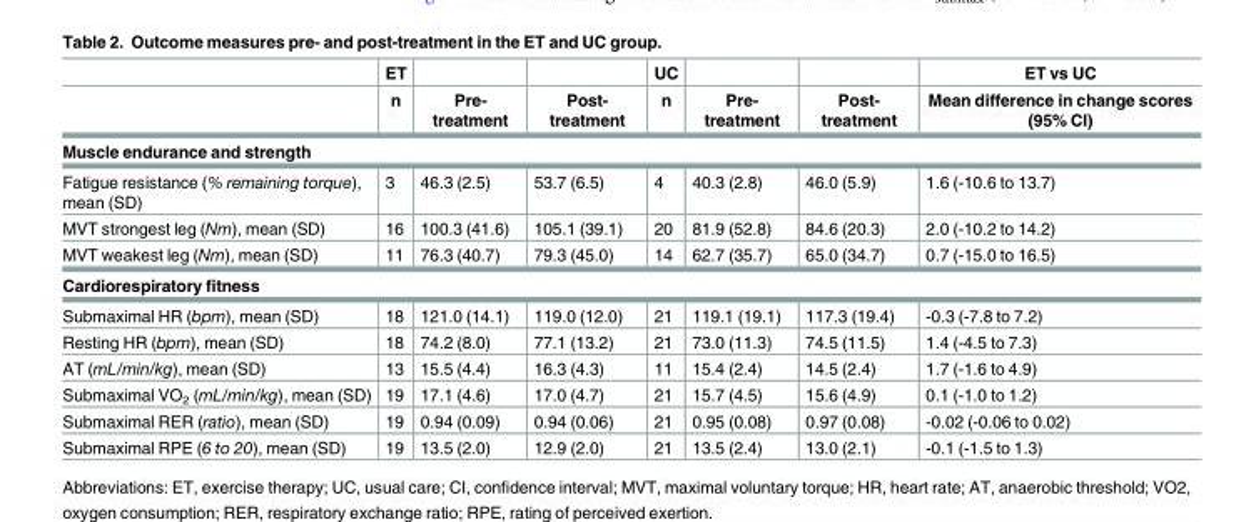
<table><thead><tr><td rowspan="2"></td><td rowspan="2">ET n</td><td rowspan="2">Pre- treatment</td><td rowspan="2">Post- treatment</td><td rowspan="2">UC n</td><td rowspan="2">Pre- treatment</td><td rowspan="2">Post- treatment</td><td rowspan="2">ET vs UC Mean difference in change scores (95% CI)</td></tr><tr></tr></thead><tbody><tr><td colspan="8">Muscle endurance and strength</td></tr><tr><td>Fatigue resistance (% remaining torque), mean (SD)</td><td>3</td><td>46.3 (2.5)</td><td>53.7 (6.5)</td><td>4</td><td>40.3 (2.8)</td><td>46.0 (5.9)</td><td>1.6 (-10.6 to 13.7)</td></tr><tr><td>MVT strongest leg (Nm), mean (SD)</td><td>16</td><td>100.3 (41.6)</td><td>105.1 (39.1)</td><td>20</td><td>81.9 (52.8)</td><td>84.6 (20.3)</td><td>2.0 (-10.2 to 14.2)</td></tr><tr><td>MVT weakest leg (Nm), mean (SD)</td><td>11</td><td>76.3 (40.7)</td><td>79.3 (45.0)</td><td>14</td><td>62.7 (35.7)</td><td>65.0 (34.7)</td><td>0.7 (-15.0 to 16.5)</td></tr><tr><td colspan="8">Cardiorespiratory fitness</td></tr><tr><td>Submaximal HR (bpm), mean (SD)</td><td>18</td><td>121.0 (14.1)</td><td>119.0 (12.0)</td><td>21</td><td>119.1 (19.1)</td><td>117.3 (19.4)</td><td>-0.3 (-7.8 to 7.2)</td></tr><tr><td>Resting HR (bpm), mean (SD)</td><td>18</td><td>74.2 (8.0)</td><td>77.1 (13.2)</td><td>21</td><td>73.0 (11.3)</td><td>74.5 (11.5)</td><td>1.4 (-4.5 to 7.3)</td></tr><tr><td>AT (mL/min/kg), mean (SD)</td><td>13</td><td>15.5 (4.4)</td><td>16.3 (4.3)</td><td>11</td><td>15.4 (2.4)</td><td>14.5 (2.4)</td><td>1.7 (-1.6 to 4.9)</td></tr><tr><td>Submaximal VO<sub>2</sub> (mL/min/kg), mean (SD)</td><td>19</td><td>17.1 (4.6)</td><td>17.0 (4.7)</td><td>21</td><td>15.7 (4.5)</td><td>15.6 (4.9)</td><td>0.1 (-1.0 to 1.2)</td></tr><tr><td>Submaximal RER (ratio), mean (SD)</td><td>19</td><td>0.94 (0.09)</td><td>0.94 (0.06)</td><td>21</td><td>0.95 (0.08)</td><td>0.97 (0.08)</td><td>-0.02 (-0.06 to 0.02)</td></tr><tr><td>Submaximal RPE (6 to 20), mean (SD)</td><td>19</td><td>13.5 (2.0)</td><td>12.9 (2.0)</td><td>21</td><td>13.5 (2.4)</td><td>13.0 (2.1)</td><td>-0.1 (-1.5 to 1.3)</td></tr></tbody></table>